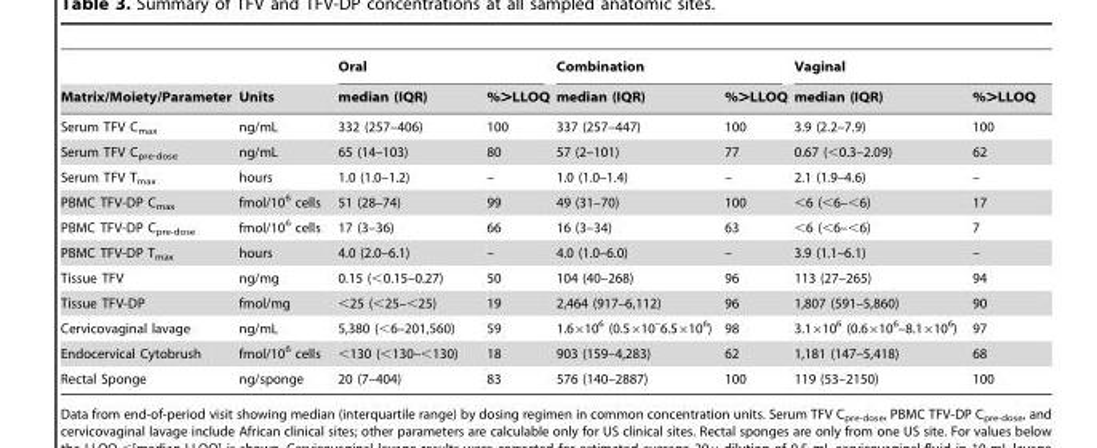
<table><thead><tr><td rowspan="2">Matrix/Moiety/Parameter</td><td rowspan="2">Units</td><td colspan="2">Oral</td><td colspan="2">Combination</td><td colspan="2">Vaginal</td></tr><tr><td>median (IQR)</td><td>%&gt;LLOQ</td><td>median (IQR)</td><td>%&gt;LLOQ</td><td>median (IQR)</td><td>%&gt;LLOQ</td></tr></thead><tbody><tr><td>Serum TFV C<sub>max</sub></td><td>ng/mL</td><td>332 (257–406)</td><td>100</td><td>337 (257–447)</td><td>100</td><td>3.9 (2.2–7.9)</td><td>100</td></tr><tr><td>Serum TFV C<sub>pre-dose</sub></td><td>ng/mL</td><td>65 (14–103)</td><td>80</td><td>57 (2–101)</td><td>77</td><td>0.67 (&lt;0.3–2.09)</td><td>62</td></tr><tr><td>Serum TFV T<sub>max</sub></td><td>hours</td><td>1.0 (1.0–1.2)</td><td>–</td><td>1.0 (1.0–1.4)</td><td>–</td><td>2.1 (1.9–4.6)</td><td>–</td></tr><tr><td>PBMC TFV-DP C<sub>max</sub></td><td>fmol/10<sup>6</sup> cells</td><td>51 (28–74)</td><td>99</td><td>49 (31–70)</td><td>100</td><td>&lt;6 (&lt;6–&lt;6)</td><td>17</td></tr><tr><td>PBMC TFV-DP C<sub>pre-dose</sub></td><td>fmol/10<sup>6</sup> cells</td><td>17 (3–36)</td><td>66</td><td>16 (3–34)</td><td>63</td><td>&lt;6 (&lt;6–&lt;6)</td><td>7</td></tr><tr><td>PBMC TFV-DP T<sub>max</sub></td><td>hours</td><td>4.0 (2.0–6.1)</td><td>–</td><td>4.0 (1.0–6.0)</td><td>–</td><td>3.9 (1.1–6.1)</td><td>–</td></tr><tr><td>Tissue TFV</td><td>ng/mg</td><td>0.15 (&lt;0.15–0.27)</td><td>50</td><td>104 (40–268)</td><td>96</td><td>113 (27–265)</td><td>94</td></tr><tr><td>Tissue TFV-DP</td><td>fmol/mg</td><td>&lt;25 (&lt;25–&lt;25)</td><td>19</td><td>2,464 (917–6,112)</td><td>96</td><td>1,807 (591–5,860)</td><td>90</td></tr><tr><td>Cervicovaginal lavage</td><td>ng/mL</td><td>5,380 (&lt;6–201,560)</td><td>59</td><td>1.6×10<sup>6</sup> (0.5×10<sup>–</sup>6.5×10<sup>6</sup>)</td><td>98</td><td>3.1×10<sup>6</sup> (0.6×10<sup>6</sup>–8.1×10<sup>6</sup>)</td><td>97</td></tr><tr><td>Endocervical Cytobrush</td><td>fmol/10<sup>6</sup> cells</td><td>&lt;130 (&lt;130–&lt;130)</td><td>18</td><td>903 (159–4,283)</td><td>62</td><td>1,181 (147–5,418)</td><td>68</td></tr><tr><td>Rectal Sponge</td><td>ng/sponge</td><td>20 (7–404)</td><td>83</td><td>576 (140–2887)</td><td>100</td><td>119 (53–2150)</td><td>100</td></tr></tbody></table>